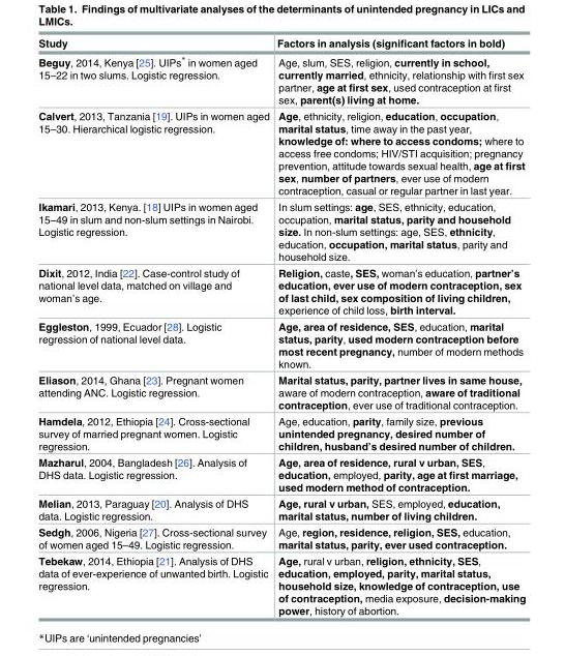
<table><thead><tr><td>Study</td><td>Factors in analysis (significant factors in bold)</td></tr></thead><tbody><tr><td>Beguy, 2014, Kenya [25]. UIPs* in women aged 15–22 in two slums. Logistic regression.</td><td>Age, slum, SES, religion, currently in school, currently married, ethnicity, relationship with first sex partner, age at first sex, used contraception at first sex, parent(s) living at home.</td></tr><tr><td>Calvert, 2013, Tanzania [19]. UIPs in women aged 15–30. Hierarchical logistic regression.</td><td>Age, ethnicity, religion, education, occupation, marital status, time away in the past year, knowledge of: where to access condoms; where to access free condoms; HIV/STI acquisition; pregnancy prevention, attitude towards sexual health, age at first sex, number of partners, ever use of modern contraception, casual or regular partner in last year.</td></tr><tr><td>Ikamari, 2013, Kenya. [18] UIPs in women aged 15–49 in slum and non-slum settings in Nairobi. Logistic regression.</td><td>In slum settings: age, SES, ethnicity, education, occupation, marital status, parity and household size. In non-slum settings: age, SES, ethnicity, education, occupation, marital status, parity and household size.</td></tr><tr><td>Dixit, 2012, India [22]. Case-control study of national level data, matched on village and woman’s age.</td><td>Religion, caste, SES, woman’s education, partner’s education, ever use of modern contraception, sex of last child, sex composition of living children, experience of child loss, birth interval.</td></tr><tr><td>Eggleston, 1999, Ecuador [28]. Logistic regression of national level data.</td><td>Age, area of residence, SES, education, marital status, parity, used modern contraception before most recent pregnancy, number of modern methods known.</td></tr><tr><td>Eliason, 2014, Ghana [23]. Pregnant women attending ANC. Logistic regression.</td><td>Marital status, parity, partner lives in same house, aware of modern contraception, aware of traditional contraception, ever use of traditional contraception.</td></tr><tr><td>Hamdela, 2012, Ethiopia [24]. Cross-sectional survey of married pregnant women. Logistic regression.</td><td>Age, education, parity, family size, previous unintended pregnancy, desired number of children, husband’s desired number of children.</td></tr><tr><td>Mazharul, 2004, Bangladesh [26]. Analysis of DHS data. Logistic regression.</td><td>Age, area of residence, rural v urban, SES, education, employed, parity, age at first marriage, used modern method of contraception.</td></tr><tr><td>Melian, 2013, Paraguay [20]. Analysis of DHS data. Logistic regression.</td><td>Age, rural v urban, SES, employed, education, marital status, number of living children.</td></tr><tr><td>Sedgh, 2006, Nigeria [27]. Cross-sectional survey of women aged 15–49. Logistic regression.</td><td>Age, region, residence, religion, SES, education, marital status, parity, ever used contraception.</td></tr><tr><td>Tebekaw, 2014, Ethiopia [21]. Analysis of DHS data of ever-experience of unwanted birth. Logistic regression.</td><td>Age, rural v urban, religion, ethnicity, SES, education, employed, parity, marital status, household size, knowledge of contraception, use of contraception, media exposure, decision-making power, history of abortion.</td></tr></tbody></table>